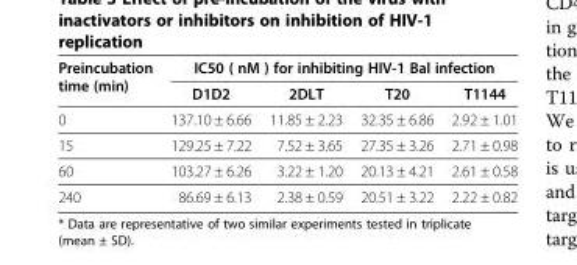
<table><thead><tr><td rowspan="2">Preincubation time (min)</td><td colspan="4">IC50 ( nM ) for inhibiting HIV-1 Bal infection</td></tr><tr><td>D1D2</td><td>2DLT</td><td>T20</td><td>T1144</td></tr></thead><tbody><tr><td>0</td><td>137.10 ± 6.66</td><td>11.85 ± 2.23</td><td>32.35 ± 6.86</td><td>2.92 ± 1.01</td></tr><tr><td>15</td><td>129.25 ± 7.22</td><td>7.52 ± 3.65</td><td>27.35 ± 3.26</td><td>2.71 ± 0.98</td></tr><tr><td>60</td><td>103.27 ± 6.26</td><td>3.22 ± 1.20</td><td>20.13 ± 4.21</td><td>2.61 ± 0.58</td></tr><tr><td>240</td><td>86.69 ± 6.13</td><td>2.38 ± 0.59</td><td>20.51 ± 3.22</td><td>2.22 ± 0.82</td></tr></tbody></table>